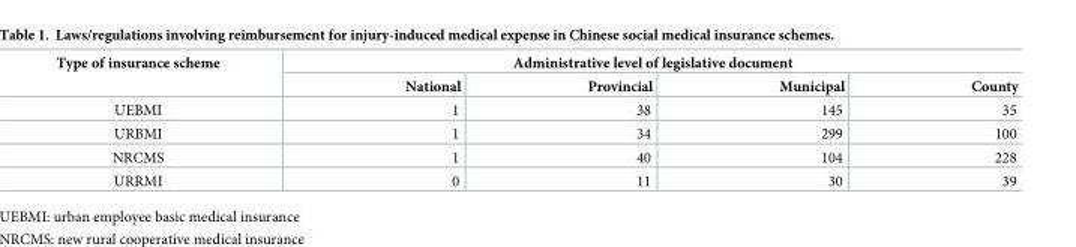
<table><thead><tr><td rowspan="2">Type of insurance scheme</td><td colspan="4">Administrative level of legislative document</td></tr><tr><td>National</td><td>Provincial</td><td>Municipal</td><td>County</td></tr></thead><tbody><tr><td>UEBMI</td><td>1</td><td>38</td><td>145</td><td>35</td></tr><tr><td>URBMI</td><td>1</td><td>34</td><td>299</td><td>100</td></tr><tr><td>NRCMS</td><td>1</td><td>40</td><td>104</td><td>228</td></tr><tr><td>URRMI</td><td>0</td><td>11</td><td>30</td><td>39</td></tr></tbody></table>